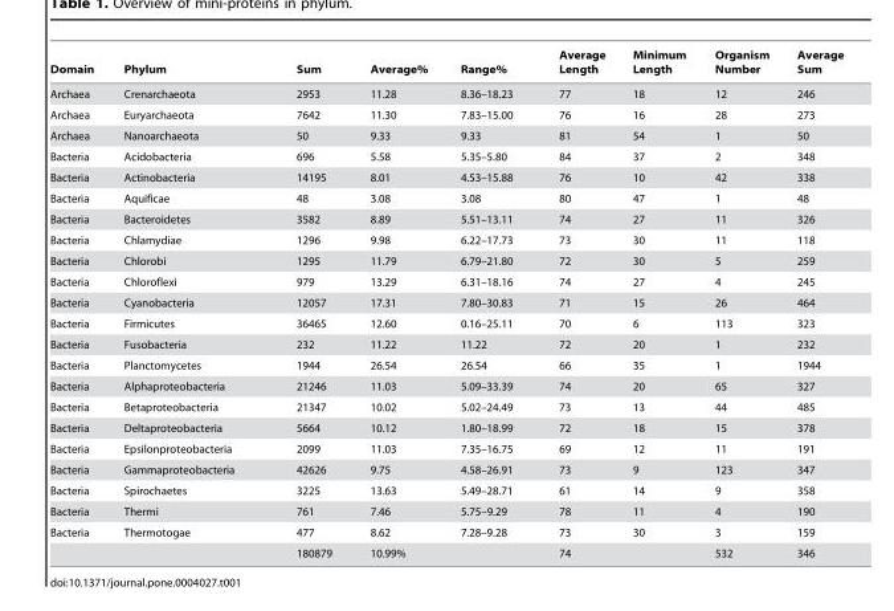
<table><thead><tr><td>Domain</td><td>Phylum</td><td>Sum</td><td>Average%</td><td>Range%</td><td>Average Length</td><td>Minimum Length</td><td>Organism Number</td><td>Average Sum</td></tr></thead><tbody><tr><td>Archaea</td><td>Crenarchaeota</td><td>2953</td><td>11.28</td><td>8.36–18.23</td><td>77</td><td>18</td><td>12</td><td>246</td></tr><tr><td>Archaea</td><td>Euryarchaeota</td><td>7642</td><td>11.30</td><td>7.83–15.00</td><td>76</td><td>16</td><td>28</td><td>273</td></tr><tr><td>Archaea</td><td>Nanoarchaeota</td><td>50</td><td>9.33</td><td>9.33</td><td>81</td><td>54</td><td>1</td><td>50</td></tr><tr><td>Bacteria</td><td>Acidobacteria</td><td>696</td><td>5.58</td><td>5.35–5.80</td><td>84</td><td>37</td><td>2</td><td>348</td></tr><tr><td>Bacteria</td><td>Actinobacteria</td><td>14195</td><td>8.01</td><td>4.53–15.88</td><td>76</td><td>10</td><td>42</td><td>338</td></tr><tr><td>Bacteria</td><td>Aquificae</td><td>48</td><td>3.08</td><td>3.08</td><td>80</td><td>47</td><td>1</td><td>48</td></tr><tr><td>Bacteria</td><td>Bacteroidetes</td><td>3582</td><td>8.89</td><td>5.51–13.11</td><td>74</td><td>27</td><td>11</td><td>326</td></tr><tr><td>Bacteria</td><td>Chlamydiae</td><td>1296</td><td>9.98</td><td>6.22–17.73</td><td>73</td><td>30</td><td>11</td><td>118</td></tr><tr><td>Bacteria</td><td>Chlorobi</td><td>1295</td><td>11.79</td><td>6.79–21.80</td><td>72</td><td>30</td><td>5</td><td>259</td></tr><tr><td>Bacteria</td><td>Chloroflexi</td><td>979</td><td>13.29</td><td>6.31–18.16</td><td>74</td><td>27</td><td>4</td><td>245</td></tr><tr><td>Bacteria</td><td>Cyanobacteria</td><td>12057</td><td>17.31</td><td>7.80–30.83</td><td>71</td><td>15</td><td>26</td><td>464</td></tr><tr><td>Bacteria</td><td>Firmicutes</td><td>36465</td><td>12.60</td><td>0.16–25.11</td><td>70</td><td>6</td><td>113</td><td>323</td></tr><tr><td>Bacteria</td><td>Fusobacteria</td><td>232</td><td>11.22</td><td>11.22</td><td>72</td><td>20</td><td>1</td><td>232</td></tr><tr><td>Bacteria</td><td>Planctomycetes</td><td>1944</td><td>26.54</td><td>26.54</td><td>66</td><td>35</td><td>1</td><td>1944</td></tr><tr><td>Bacteria</td><td>Alphaproteobacteria</td><td>21246</td><td>11.03</td><td>5.09–33.39</td><td>74</td><td>20</td><td>65</td><td>327</td></tr><tr><td>Bacteria</td><td>Betaproteobacteria</td><td>21347</td><td>10.02</td><td>5.02–24.49</td><td>73</td><td>13</td><td>44</td><td>485</td></tr><tr><td>Bacteria</td><td>Deltaproteobacteria</td><td>5664</td><td>10.12</td><td>1.80–18.99</td><td>72</td><td>18</td><td>15</td><td>378</td></tr><tr><td>Bacteria</td><td>Epsilonproteobacteria</td><td>2099</td><td>11.03</td><td>7.35–16.75</td><td>69</td><td>12</td><td>11</td><td>191</td></tr><tr><td>Bacteria</td><td>Gammaproteobacteria</td><td>42626</td><td>9.75</td><td>4.58–26.91</td><td>73</td><td>9</td><td>123</td><td>347</td></tr><tr><td>Bacteria</td><td>Spirochaetes</td><td>3225</td><td>13.63</td><td>5.49–28.71</td><td>61</td><td>14</td><td>9</td><td>358</td></tr><tr><td>Bacteria</td><td>Thermi</td><td>761</td><td>7.46</td><td>5.75–9.29</td><td>78</td><td>11</td><td>4</td><td>190</td></tr><tr><td rowspan="2">Bacteria</td><td>Thermotogae</td><td>477</td><td>8.62</td><td>7.28–9.28</td><td>73</td><td>30</td><td>3</td><td>159</td></tr><tr><td></td><td>180879</td><td>10.99%</td><td></td><td>74</td><td></td><td>532</td><td>346</td></tr></tbody></table>